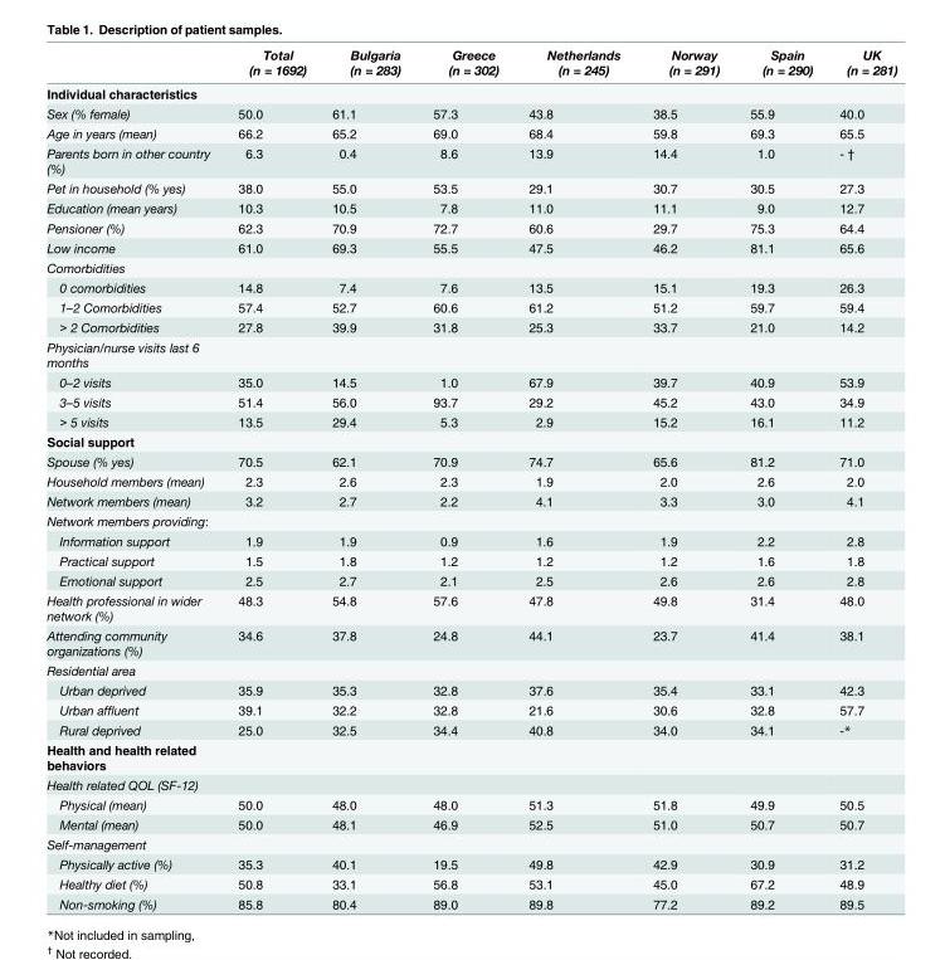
<table><thead><tr><td></td><td>Total (n = 1692)</td><td>Bulgaria (n = 283)</td><td>Greece (n = 302)</td><td>Netherlands (n = 245)</td><td>Norway (n = 291)</td><td>Spain (n = 290)</td><td>UK (n = 281)</td></tr></thead><tbody><tr><td colspan="8">Individual characteristics</td></tr><tr><td>Sex (% female)</td><td>50.0</td><td>61.1</td><td>57.3</td><td>43.8</td><td>38.5</td><td>55.9</td><td>40.0</td></tr><tr><td>Age in years (mean)</td><td>66.2</td><td>65.2</td><td>69.0</td><td>68.4</td><td>59.8</td><td>69.3</td><td>65.5</td></tr><tr><td>Parents born in other country (%)</td><td>6.3</td><td>0.4</td><td>8.6</td><td>13.9</td><td>14.4</td><td>1.0</td><td>- †</td></tr><tr><td>Pet in household (% yes)</td><td>38.0</td><td>55.0</td><td>53.5</td><td>29.1</td><td>30.7</td><td>30.5</td><td>27.3</td></tr><tr><td>Education (mean years)</td><td>10.3</td><td>10.5</td><td>7.8</td><td>11.0</td><td>11.1</td><td>9.0</td><td>12.7</td></tr><tr><td>Pensioner (%)</td><td>62.3</td><td>70.9</td><td>72.7</td><td>60.6</td><td>29.7</td><td>75.3</td><td>64.4</td></tr><tr><td>Low income</td><td>61.0</td><td>69.3</td><td>55.5</td><td>47.5</td><td>46.2</td><td>81.1</td><td>65.6</td></tr><tr><td colspan="8">Comorbidities</td></tr><tr><td>0 comorbidities</td><td>14.8</td><td>7.4</td><td>7.6</td><td>13.5</td><td>15.1</td><td>19.3</td><td>26.3</td></tr><tr><td>1–2 Comorbidities</td><td>57.4</td><td>52.7</td><td>60.6</td><td>61.2</td><td>51.2</td><td>59.7</td><td>59.4</td></tr><tr><td>&gt; 2 Comorbidities</td><td>27.8</td><td>39.9</td><td>31.8</td><td>25.3</td><td>33.7</td><td>21.0</td><td>14.2</td></tr><tr><td colspan="8">Physician/nurse visits last 6 months</td></tr><tr><td>0–2 visits</td><td>35.0</td><td>14.5</td><td>1.0</td><td>67.9</td><td>39.7</td><td>40.9</td><td>53.9</td></tr><tr><td>3–5 visits</td><td>51.4</td><td>56.0</td><td>93.7</td><td>29.2</td><td>45.2</td><td>43.0</td><td>34.9</td></tr><tr><td>&gt; 5 visits</td><td>13.5</td><td>29.4</td><td>5.3</td><td>2.9</td><td>15.2</td><td>16.1</td><td>11.2</td></tr><tr><td colspan="8">Social support</td></tr><tr><td>Spouse (% yes)</td><td>70.5</td><td>62.1</td><td>70.9</td><td>74.7</td><td>65.6</td><td>81.2</td><td>71.0</td></tr><tr><td>Household members (mean)</td><td>2.3</td><td>2.6</td><td>2.3</td><td>1.9</td><td>2.0</td><td>2.6</td><td>2.0</td></tr><tr><td>Network members (mean)</td><td>3.2</td><td>2.7</td><td>2.2</td><td>4.1</td><td>3.3</td><td>3.0</td><td>4.1</td></tr><tr><td colspan="8">Network members providing:</td></tr><tr><td>Information support</td><td>1.9</td><td>1.9</td><td>0.9</td><td>1.6</td><td>1.9</td><td>2.2</td><td>2.8</td></tr><tr><td>Practical support</td><td>1.5</td><td>1.8</td><td>1.2</td><td>1.2</td><td>1.2</td><td>1.6</td><td>1.8</td></tr><tr><td>Emotional support</td><td>2.5</td><td>2.7</td><td>2.1</td><td>2.5</td><td>2.6</td><td>2.6</td><td>2.8</td></tr><tr><td>Health professional in wider network (%)</td><td>48.3</td><td>54.8</td><td>57.6</td><td>47.8</td><td>49.8</td><td>31.4</td><td>48.0</td></tr><tr><td>Attending community organizations (%)</td><td>34.6</td><td>37.8</td><td>24.8</td><td>44.1</td><td>23.7</td><td>41.4</td><td>38.1</td></tr><tr><td colspan="8">Residential area</td></tr><tr><td>Urban deprived</td><td>35.9</td><td>35.3</td><td>32.8</td><td>37.6</td><td>35.4</td><td>33.1</td><td>42.3</td></tr><tr><td>Urban affluent</td><td>39.1</td><td>32.2</td><td>32.8</td><td>21.6</td><td>30.6</td><td>32.8</td><td>57.7</td></tr><tr><td>Rural deprived</td><td>25.0</td><td>32.5</td><td>34.4</td><td>40.8</td><td>34.0</td><td>34.1</td><td>-*</td></tr><tr><td colspan="8">Health and health related behaviors</td></tr><tr><td colspan="8">Health related QOL (SF-12)</td></tr><tr><td>Physical (mean)</td><td>50.0</td><td>48.0</td><td>48.0</td><td>51.3</td><td>51.8</td><td>49.9</td><td>50.5</td></tr><tr><td>Mental (mean)</td><td>50.0</td><td>48.1</td><td>46.9</td><td>52.5</td><td>51.0</td><td>50.7</td><td>50.7</td></tr><tr><td colspan="8">Self-management</td></tr><tr><td>Physically active (%)</td><td>35.3</td><td>40.1</td><td>19.5</td><td>49.8</td><td>42.9</td><td>30.9</td><td>31.2</td></tr><tr><td>Healthy diet (%)</td><td>50.8</td><td>33.1</td><td>56.8</td><td>53.1</td><td>45.0</td><td>67.2</td><td>48.9</td></tr><tr><td>Non-smoking (%)</td><td>85.8</td><td>80.4</td><td>89.0</td><td>89.8</td><td>77.2</td><td>89.2</td><td>89.5</td></tr></tbody></table>